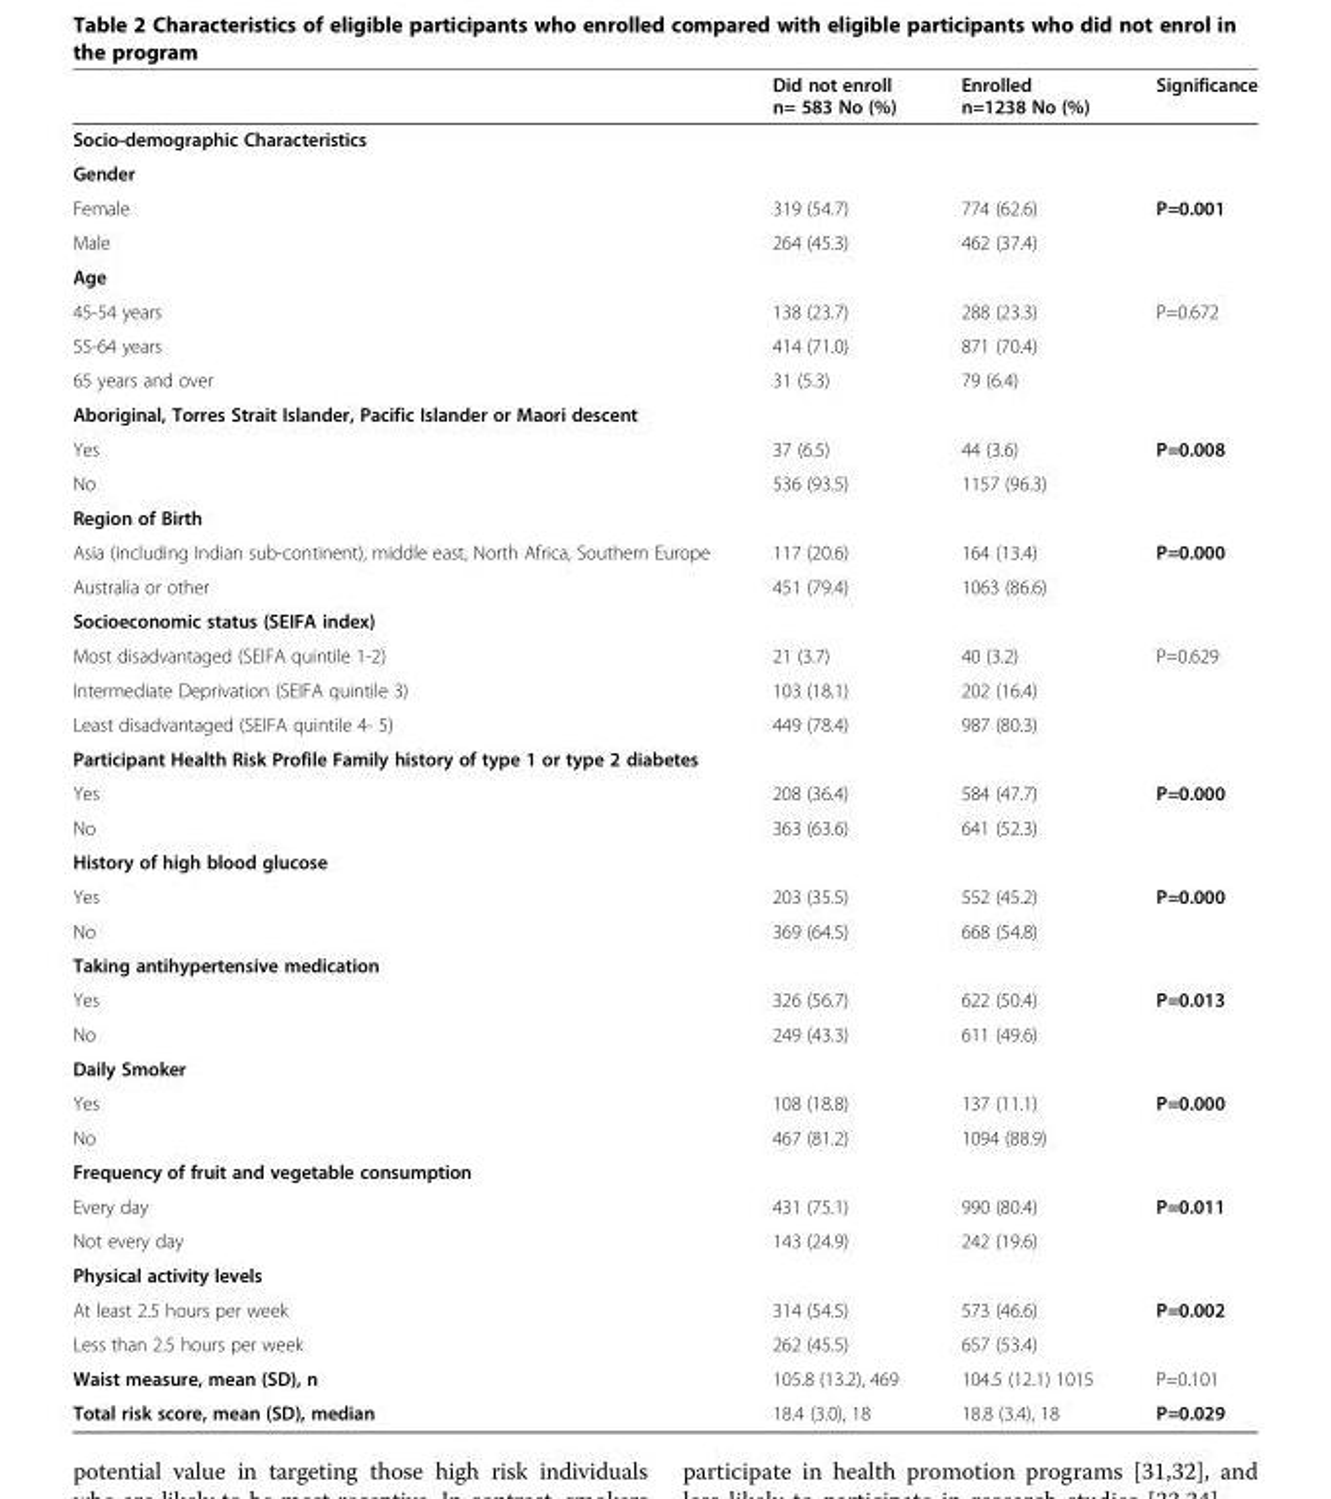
<table><thead><tr><td></td><td>Did not enroll n= 583 No (%)</td><td>Enrolled n=1238 No (%)</td><td>Significance</td></tr></thead><tbody><tr><td colspan="4">Socio-demographic Characteristics</td></tr><tr><td colspan="4">Gender</td></tr><tr><td>Female</td><td>319 (54.7)</td><td>774 (62.6)</td><td>P=0.001</td></tr><tr><td>Male</td><td>264 (45.3)</td><td>462 (37.4)</td><td></td></tr><tr><td colspan="4">Age</td></tr><tr><td>45-54 years</td><td>138 (23.7)</td><td>288 (23.3)</td><td>P=0.672</td></tr><tr><td>55-64 years</td><td>414 (71.0)</td><td>871 (70.4)</td><td></td></tr><tr><td>65 years and over</td><td>31 (5.3)</td><td>79 (6.4)</td><td></td></tr><tr><td colspan="4">Aboriginal, Torres Strait Islander, Pacific Islander or Maori descent</td></tr><tr><td>Yes</td><td>37 (6.5)</td><td>44 (3.6)</td><td>P=0.008</td></tr><tr><td>No</td><td>536 (93.5)</td><td>1157 (96.3)</td><td></td></tr><tr><td colspan="4">Region of Birth</td></tr><tr><td>Asia (including Indian sub-continent), middle east, North Africa, Southern Europe</td><td>117 (20.6)</td><td>164 (13.4)</td><td>P=0.000</td></tr><tr><td>Australia or other</td><td>451 (79.4)</td><td>1063 (86.6)</td><td></td></tr><tr><td colspan="4">Socioeconomic status (SEIFA index)</td></tr><tr><td>Most disadvantaged (SEIFA quintile 1-2)</td><td>21 (3.7)</td><td>40 (3.2)</td><td>P=0.629</td></tr><tr><td>Intermediate Deprivation (SEIFA quintile 3)</td><td>103 (18.1)</td><td>202 (16.4)</td><td></td></tr><tr><td>Least disadvantaged (SEIFA quintile 4- 5)</td><td>449 (78.4)</td><td>987 (80.3)</td><td></td></tr><tr><td colspan="4">Participant Health Risk Profile Family history of type 1 or type 2 diabetes</td></tr><tr><td>Yes</td><td>208 (36.4)</td><td>584 (47.7)</td><td>P=0.000</td></tr><tr><td>No</td><td>363 (63.6)</td><td>641 (52.3)</td><td></td></tr><tr><td colspan="4">History of high blood glucose</td></tr><tr><td>Yes</td><td>203 (35.5)</td><td>552 (45.2)</td><td>P=0.000</td></tr><tr><td>No</td><td>369 (64.5)</td><td>668 (54.8)</td><td></td></tr><tr><td colspan="4">Taking antihypertensive medication</td></tr><tr><td>Yes</td><td>326 (56.7)</td><td>622 (50.4)</td><td>P=0.013</td></tr><tr><td>No</td><td>249 (43.3)</td><td>611 (49.6)</td><td></td></tr><tr><td colspan="4">Daily Smoker</td></tr><tr><td>Yes</td><td>108 (18.8)</td><td>137 (11.1)</td><td>P=0.000</td></tr><tr><td>No</td><td>467 (81.2)</td><td>1094 (88.9)</td><td></td></tr><tr><td colspan="4">Frequency of fruit and vegetable consumption</td></tr><tr><td>Every day</td><td>431 (75.1)</td><td>990 (80.4)</td><td>P=0.011</td></tr><tr><td>Not every day</td><td>143 (24.9)</td><td>242 (19.6)</td><td></td></tr><tr><td colspan="4">Physical activity levels</td></tr><tr><td>At least 2.5 hours per week</td><td>314 (54.5)</td><td>573 (46.6)</td><td>P=0.002</td></tr><tr><td>Less than 2.5 hours per week</td><td>262 (45.5)</td><td>657 (53.4)</td><td></td></tr><tr><td>Waist measure, mean (SD), n</td><td>105.8 (13.2), 469</td><td>104.5 (12.1) 1015</td><td>P=0.101</td></tr><tr><td>Total risk score, mean (SD), median</td><td>18.4 (3.0), 18</td><td>18.8 (3.4), 18</td><td>P=0.029</td></tr></tbody></table>